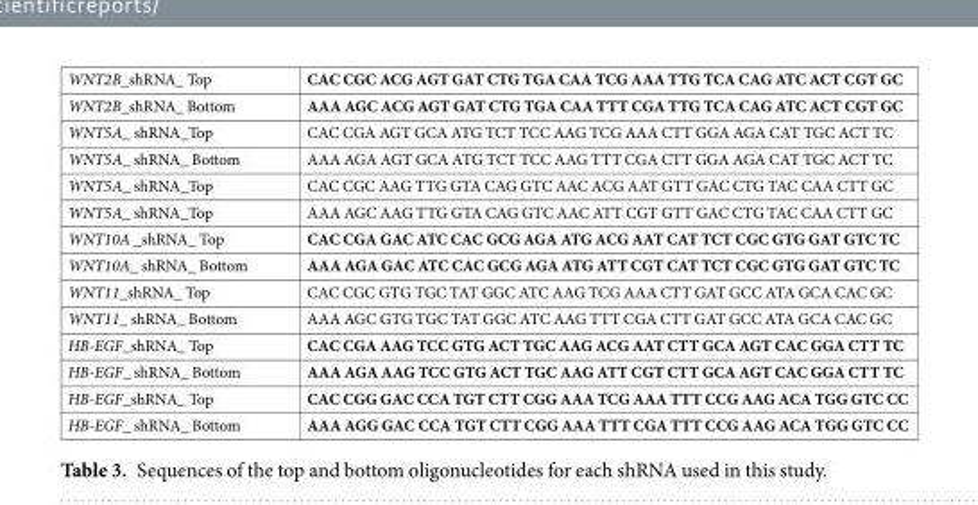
<table><tbody><tr><td>WNT2B_shRNA_ Top</td><td>CAC CGC ACG AGT GAT CTG TGA CAA TCG AAA TTG TCA CAG ATC ACT CGT GC</td></tr><tr><td>WNT2B_shRNA_ Bottom</td><td>AAA AGC ACG AGT GAT CTG TGA CAA TTT CGA TTG TCA CAG ATC ACT CGT GC</td></tr><tr><td>WNT5A_ shRNA_Top</td><td>CAC CGA AGT GCA ATG TCT TCC AAG TCG AAA CTT GGA AGA CAT TGC ACT TC</td></tr><tr><td>WNT5A_ shRNA_ Bottom</td><td>AAA AGA AGT GCA ATG TCT TCC AAG TTT CGA CTT GGA AGA CAT TGC ACT TC</td></tr><tr><td>WNT5A_ shRNA_Top</td><td>CAC CGC AAG TTG GTA CAG GTC AAC ACG AAT GTT GAC CTG TAC CAA CTT GC</td></tr><tr><td>WNT5A_ shRNA_Top</td><td>AAA AGC AAG TTG GTA CAG GTC AAC ATT CGT GTT GAC CTG TAC CAA CTT GC</td></tr><tr><td>WNT10A _shRNA_ Top</td><td>CAC CGA GAC ATC CAC GCG AGA ATG ACG AAT CAT TCT CGC GTG GAT GTC TC</td></tr><tr><td>WNT10A_ shRNA_ Bottom</td><td>AAA AGA GAC ATC CAC GCG AGA ATG ATT CGT CAT TCT CGC GTG GAT GTC TC</td></tr><tr><td>WNT11_shRNA_ Top</td><td>CAC CGC GTG TGC TAT GGC ATC AAG TCG AAA CTT GAT GCC ATA GCA CAC GC</td></tr><tr><td>WNT11_ shRNA_ Bottom</td><td>AAA AGC GTG TGC TAT GGC ATC AAG TTT CGA CTT GAT GCC ATA GCA CAC GC</td></tr><tr><td>HB-EGF_shRNA_ Top</td><td>CAC CGA AAG TCC GTG ACT TGC AAG ACG AAT CTT GCA AGT CAC GGA CTT TC</td></tr><tr><td>HB-EGF_ shRNA_ Bottom</td><td>AAA AGA AAG TCC GTG ACT TGC AAG ATT CGT CTT GCA AGT CAC GGA CTT TC</td></tr><tr><td>HB-EGF_shRNA_ Top</td><td>CAC CGG GAC CCA TGT CTT CGG AAA TCG AAA TTT CCG AAG ACA TGG GTC CC</td></tr><tr><td>HB-EGF_ shRNA_ Bottom</td><td>AAA AGG GAC CCA TGT CTT CGG AAA TTT CGA TTT CCG AAG ACA TGG GTC CC</td></tr></tbody></table>